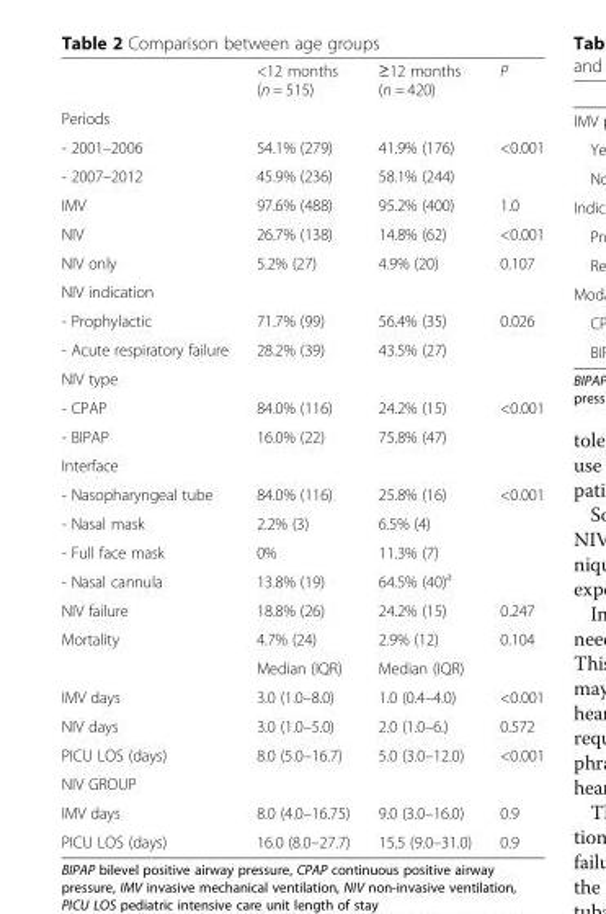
<table><thead><tr><td></td><td>&lt;12 months (n = 515)</td><td>≥12 months (n = 420)</td><td>P</td></tr></thead><tbody><tr><td colspan="4">Periods</td></tr><tr><td>- 2001–2006</td><td>54.1% (279)</td><td>41.9% (176)</td><td rowspan="2">&lt;0.001</td></tr><tr><td>- 2007–2012</td><td>45.9% (236)</td><td>58.1% (244)</td></tr><tr><td>IMV</td><td>97.6% (488)</td><td>95.2% (400)</td><td>1.0</td></tr><tr><td>NIV</td><td>26.7% (138)</td><td>14.8% (62)</td><td>&lt;0.001</td></tr><tr><td>NIV only</td><td>5.2% (27)</td><td>4.9% (20)</td><td>0.107</td></tr><tr><td colspan="4">NIV indication</td></tr><tr><td>- Prophylactic</td><td>71.7% (99)</td><td>56.4% (35)</td><td rowspan="2">0.026</td></tr><tr><td>- Acute respiratory failure</td><td>28.2% (39)</td><td>43.5% (27)</td></tr><tr><td colspan="4">NIV type</td></tr><tr><td>- CPAP</td><td>84.0% (116)</td><td>24.2% (15)</td><td rowspan="2">&lt;0.001</td></tr><tr><td>- BIPAP</td><td>16.0% (22)</td><td>75.8% (47)</td></tr><tr><td colspan="4">Interface</td></tr><tr><td>- Nasopharyngeal tube</td><td>84.0% (116)</td><td>25.8% (16)</td><td rowspan="4">&lt;0.001</td></tr><tr><td>- Nasal mask</td><td>2.2% (3)</td><td>6.5% (4)</td></tr><tr><td>- Full face mask</td><td>0%</td><td>11.3% (7)</td></tr><tr><td>- Nasal cannula</td><td>13.8% (19)</td><td>64.5% (40)<sup>a</sup></td></tr><tr><td>NIV failure</td><td>18.8% (26)</td><td>24.2% (15)</td><td>0.247</td></tr><tr><td rowspan="2">Mortality</td><td>4.7% (24)</td><td>2.9% (12)</td><td>0.104</td></tr><tr><td>Median (IQR)</td><td>Median (IQR)</td><td></td></tr><tr><td>IMV days</td><td>3.0 (1.0–8.0)</td><td>1.0 (0.4–4.0)</td><td>&lt;0.001</td></tr><tr><td>NIV days</td><td>3.0 (1.0–5.0)</td><td>2.0 (1.0–6.)</td><td>0.572</td></tr><tr><td>PICU LOS (days)</td><td>8.0 (5.0–16.7)</td><td>5.0 (3.0–12.0)</td><td>&lt;0.001</td></tr><tr><td colspan="4">NIV GROUP</td></tr><tr><td>IMV days</td><td>8.0 (4.0–16.75)</td><td>9.0 (3.0–16.0)</td><td>0.9</td></tr><tr><td>PICU LOS (days)</td><td>16.0 (8.0–27.7)</td><td>15.5 (9.0–31.0)</td><td>0.9</td></tr></tbody></table>